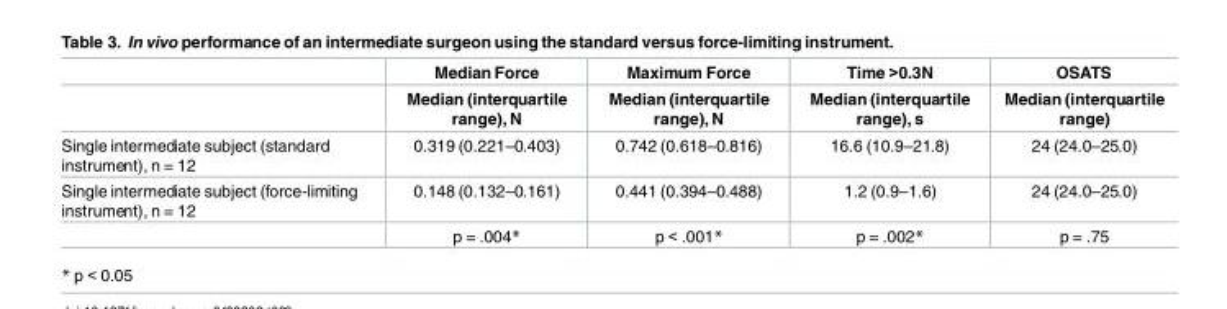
<table><thead><tr><td rowspan="2"></td><td rowspan="2">Median Force Median (interquartile range), N</td><td rowspan="2">Maximum Force Median (interquartile range), N</td><td rowspan="2">Time &gt;0.3N Median (interquartile range), s</td><td rowspan="2">OSATS Median (interquartile range)</td></tr><tr></tr></thead><tbody><tr><td>Single intermediate subject (standard instrument), n = 12</td><td>0.319 (0.221–0.403)</td><td>0.742 (0.618–0.816)</td><td>16.6 (10.9–21.8)</td><td>24 (24.0–25.0)</td></tr><tr><td rowspan="2">Single intermediate subject (force-limiting instrument), n = 12</td><td>0.148 (0.132–0.161)</td><td>0.441 (0.394–0.488)</td><td>1.2 (0.9–1.6)</td><td>24 (24.0–25.0)</td></tr><tr><td>p = .004*</td><td>p &lt; .001*</td><td>p = .002*</td><td>p = .75</td></tr></tbody></table>